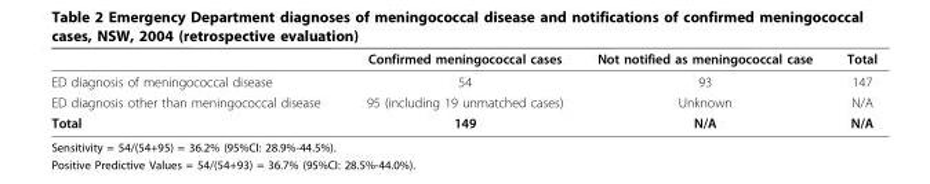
<table><thead><tr><td></td><td>Confirmed meningococcal cases</td><td>Not notified as meningococcal case</td><td>Total</td></tr></thead><tbody><tr><td>ED diagnosis of meningococcal disease</td><td>54</td><td>93</td><td>147</td></tr><tr><td>ED diagnosis other than meningococcal disease</td><td>95 (including 19 unmatched cases)</td><td>Unknown</td><td>N/A</td></tr><tr><td>Total</td><td>149</td><td>N/A</td><td>N/A</td></tr></tbody></table>